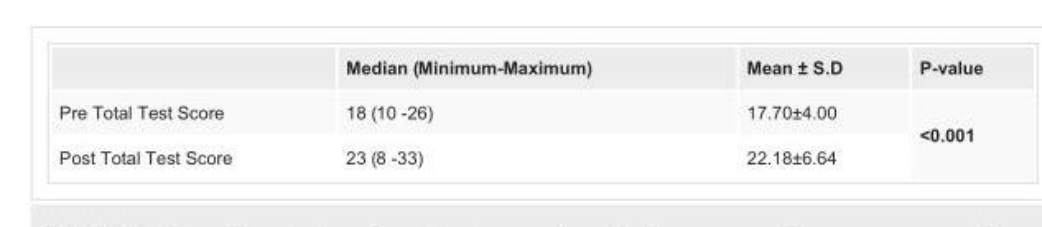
<table><thead><tr><td></td><td>Median (Minimum-Maximum)</td><td>Mean ± S.D</td><td>P-value</td></tr></thead><tbody><tr><td>Pre Total Test Score</td><td>18 (10 -26)</td><td>17.70±4.00</td><td rowspan="2">&lt;0.001</td></tr><tr><td>Post Total Test Score</td><td>23 (8 -33)</td><td>22.18±6.64</td></tr></tbody></table>